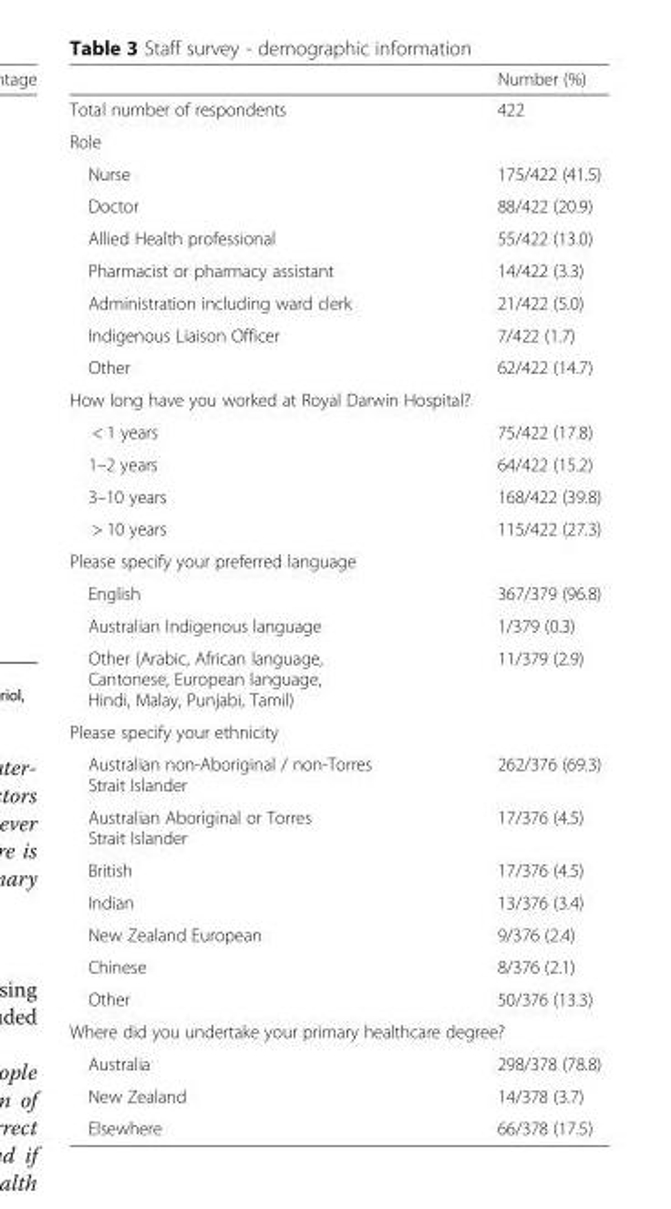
<table><thead><tr><td></td><td>Number (%)</td></tr></thead><tbody><tr><td>Total number of respondents</td><td>422</td></tr><tr><td colspan="2">Role</td></tr><tr><td>Nurse</td><td>175/422 (41.5)</td></tr><tr><td>Doctor</td><td>88/422 (20.9)</td></tr><tr><td>Allied Health professional</td><td>55/422 (13.0)</td></tr><tr><td>Pharmacist or pharmacy assistant</td><td>14/422 (3.3)</td></tr><tr><td>Administration including ward clerk</td><td>21/422 (5.0)</td></tr><tr><td>Indigenous Liaison Officer</td><td>7/422 (1.7)</td></tr><tr><td>Other</td><td>62/422 (14.7)</td></tr><tr><td colspan="2">How long have you worked at Royal Darwin Hospital?</td></tr><tr><td>&lt; 1 years</td><td>75/422 (17.8)</td></tr><tr><td>1–2 years</td><td>64/422 (15.2)</td></tr><tr><td>3–10 years</td><td>168/422 (39.8)</td></tr><tr><td>&gt; 10 years</td><td>115/422 (27.3)</td></tr><tr><td colspan="2">Please specify your preferred language</td></tr><tr><td>English</td><td>367/379 (96.8)</td></tr><tr><td>Australian Indigenous language</td><td>1/379 (0.3)</td></tr><tr><td>Other (Arabic, African language, Cantonese, European language, Hindi, Malay, Punjabi, Tamil)</td><td>11/379 (2.9)</td></tr><tr><td colspan="2">Please specify your ethnicity</td></tr><tr><td>Australian non-Aboriginal / non-Torres Strait Islander</td><td>262/376 (69.3)</td></tr><tr><td>Australian Aboriginal or Torres Strait Islander</td><td>17/376 (4.5)</td></tr><tr><td>British</td><td>17/376 (4.5)</td></tr><tr><td>Indian</td><td>13/376 (3.4)</td></tr><tr><td>New Zealand European</td><td>9/376 (2.4)</td></tr><tr><td>Chinese</td><td>8/376 (2.1)</td></tr><tr><td>Other</td><td>50/376 (13.3)</td></tr><tr><td colspan="2">Where did you undertake your primary healthcare degree?</td></tr><tr><td>Australia</td><td>298/378 (78.8)</td></tr><tr><td>New Zealand</td><td>14/378 (3.7)</td></tr><tr><td>Elsewhere</td><td>66/378 (17.5)</td></tr></tbody></table>